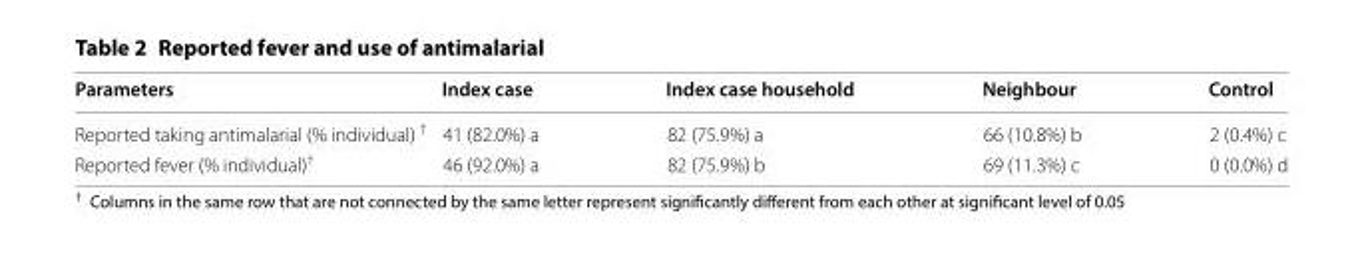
<table><thead><tr><td>Parameters</td><td>Index case</td><td>Index case household</td><td>Neighbour</td><td>Control</td></tr></thead><tbody><tr><td>Reported taking antimalarial (% individual) <sup>†</sup></td><td>41 (82.0%) a</td><td>82 (75.9%) a</td><td>66 (10.8%) b</td><td>2 (0.4%) c</td></tr><tr><td>Reported fever (% individual)<sup>†</sup></td><td>46 (92.0%) a</td><td>82 (75.9%) b</td><td>69 (11.3%) c</td><td>0 (0.0%) d</td></tr></tbody></table>